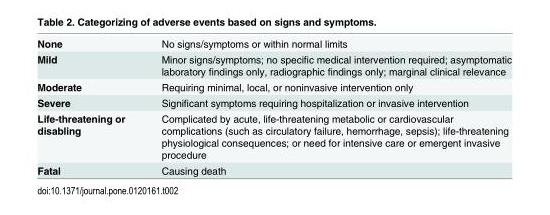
<table><tbody><tr><td>None</td><td>No signs/symptoms or within normal limits</td></tr><tr><td>Mild</td><td>Minor signs/symptoms; no specific medical intervention required; asymptomatic laboratory findings only, radiographic findings only; marginal clinical relevance</td></tr><tr><td>Moderate</td><td>Requiring minimal, local, or noninvasive intervention only</td></tr><tr><td>Severe</td><td>Significant symptoms requiring hospitalization or invasive intervention</td></tr><tr><td>Life-threatening or disabling</td><td>Complicated by acute, life-threatening metabolic or cardiovascular complications (such as circulatory failure, hemorrhage, sepsis); life-threatening physiological consequences; or need for intensive care or emergent invasive procedure</td></tr><tr><td>Fatal</td><td>Causing death</td></tr></tbody></table>